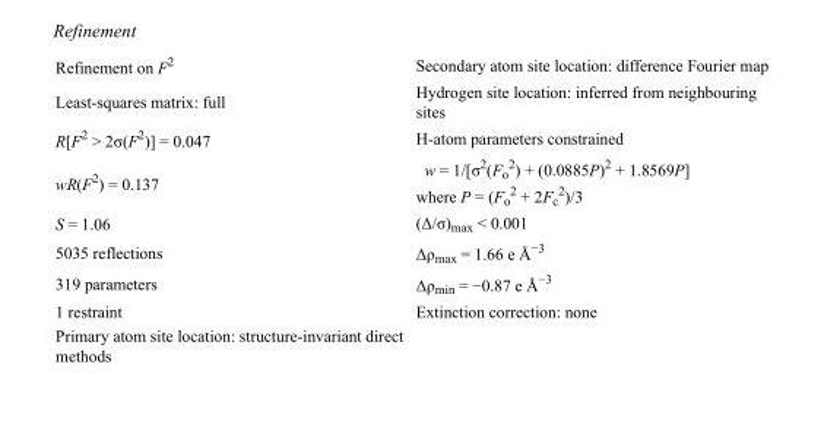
<table><tbody><tr><td>Refinement on F<sup>2</sup></td><td>Secondary atom site location: difference Fourier map</td></tr><tr><td>Least-squares matrix: full</td><td>Hydrogen site location: inferred from neighbouring sites</td></tr><tr><td>R[F<sup>2</sup> &gt; 2σ(F<sup>2</sup>)] = 0.047</td><td>H-atom parameters constrained</td></tr><tr><td>wR(F<sup>2</sup>) = 0.137</td><td>w = 1/[σ<sup>2</sup>(F<sub>o</sub> <sup>2</sup>) + (0.0885P)<sup>2</sup> + 1.8569P] where P = (F<sub>o</sub> <sup>2</sup> + 2F<sub>c</sub> <sup>2</sup>)/3</td></tr><tr><td>S = 1.06</td><td>(Δ/σ)<sub>max</sub> &lt; 0.001</td></tr><tr><td>5035 reflections</td><td>Δρ<sub>max</sub> = 1.66 e Å<sup>−3</sup></td></tr><tr><td>319 parameters</td><td>Δρ<sub>min</sub> = −0.87 e Å<sup>−3</sup></td></tr><tr><td>1 restraint</td><td>Extinction correction: none</td></tr><tr><td>Primary atom site location: structure-invariant direct methods</td><td></td></tr></tbody></table>